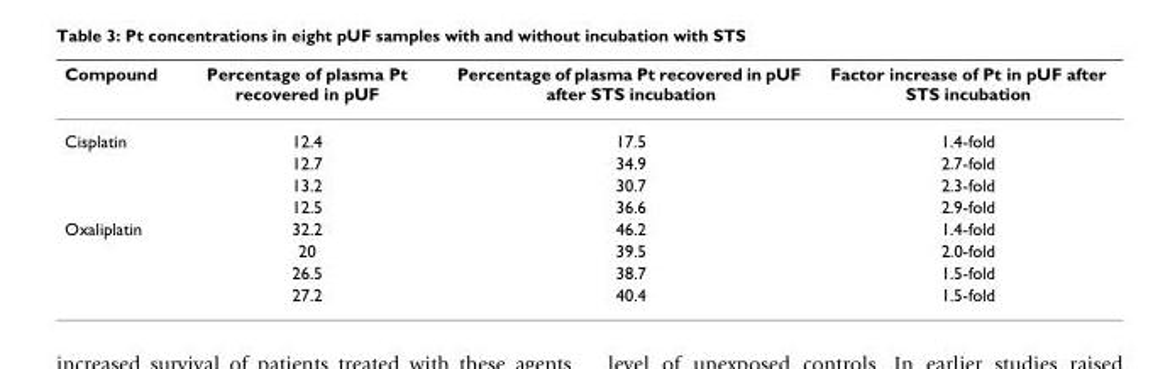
<table><thead><tr><td>Compound</td><td>Percentage of plasma Pt recovered in pUF</td><td>Percentage of plasma Pt recovered in pUF after STS incubation</td><td>Factor increase of Pt in pUF after STS incubation</td></tr></thead><tbody><tr><td rowspan="4">Cisplatin</td><td>12.4</td><td>17.5</td><td>1.4-fold</td></tr><tr><td>12.7</td><td>34.9</td><td>2.7-fold</td></tr><tr><td>13.2</td><td>30.7</td><td>2.3-fold</td></tr><tr><td>12.5</td><td>36.6</td><td>2.9-fold</td></tr><tr><td rowspan="4">Oxaliplatin</td><td>32.2</td><td>46.2</td><td>1.4-fold</td></tr><tr><td>20</td><td>39.5</td><td>2.0-fold</td></tr><tr><td>26.5</td><td>38.7</td><td>1.5-fold</td></tr><tr><td>27.2</td><td>40.4</td><td>1.5-fold</td></tr></tbody></table>